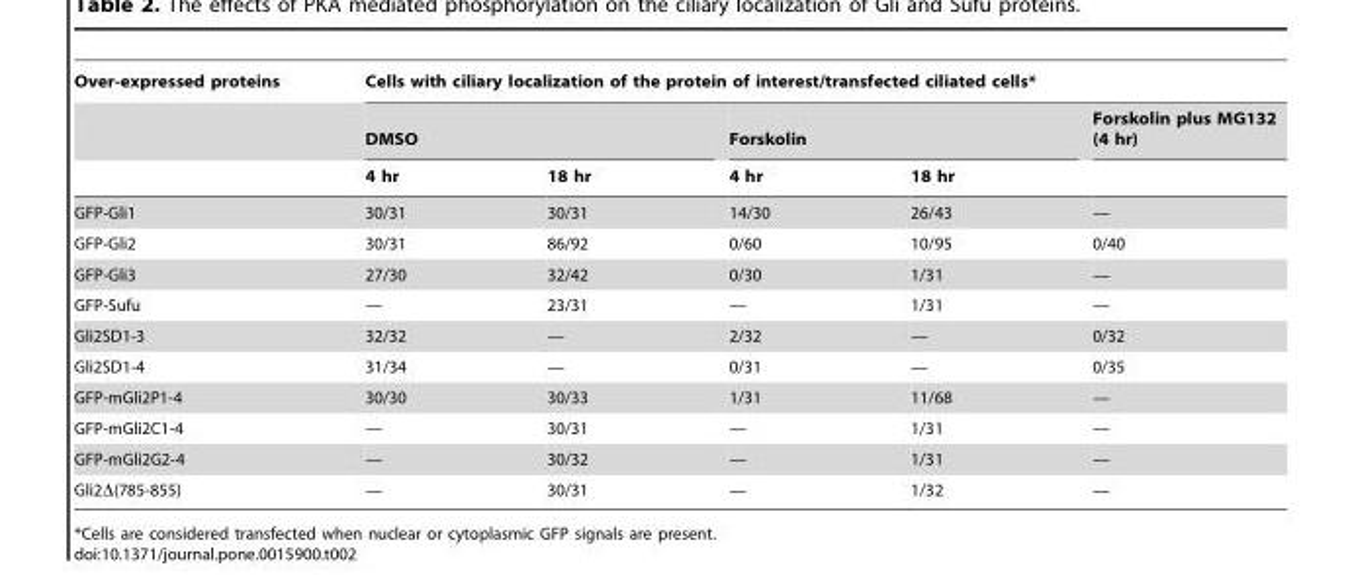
<table><thead><tr><td rowspan="3">Over-expressed proteins</td><td colspan="5">Cells with ciliary localization of the protein of interest/transfected ciliated cells*</td></tr><tr><td colspan="2">DMSO</td><td colspan="2">Forskolin</td><td rowspan="2">Forskolin plus MG132 (4 hr)</td></tr><tr><td>4 hr</td><td>18 hr</td><td>4 hr</td><td>18 hr</td></tr></thead><tbody><tr><td>GFP-Gli1</td><td>30/31</td><td>30/31</td><td>14/30</td><td>26/43</td><td>—</td></tr><tr><td>GFP-Gli2</td><td>30/31</td><td>86/92</td><td>0/60</td><td>10/95</td><td>0/40</td></tr><tr><td>GFP-Gli3</td><td>27/30</td><td>32/42</td><td>0/30</td><td>1/31</td><td>—</td></tr><tr><td>GFP-Sufu</td><td>—</td><td>23/31</td><td>—</td><td>1/31</td><td>—</td></tr><tr><td>Gli2SD1-3</td><td>32/32</td><td>—</td><td>2/32</td><td>—</td><td>0/32</td></tr><tr><td>Gli2SD1-4</td><td>31/34</td><td>—</td><td>0/31</td><td>—</td><td>0/35</td></tr><tr><td>GFP-mGli2P1-4</td><td>30/30</td><td>30/33</td><td>1/31</td><td>11/68</td><td>—</td></tr><tr><td>GFP-mGli2C1-4</td><td>—</td><td>30/31</td><td>—</td><td>1/31</td><td>—</td></tr><tr><td>GFP-mGli2G2-4</td><td>—</td><td>30/32</td><td>—</td><td>1/31</td><td>—</td></tr><tr><td>Gli2Δ(785-855)</td><td>—</td><td>30/31</td><td>—</td><td>1/32</td><td>—</td></tr></tbody></table>